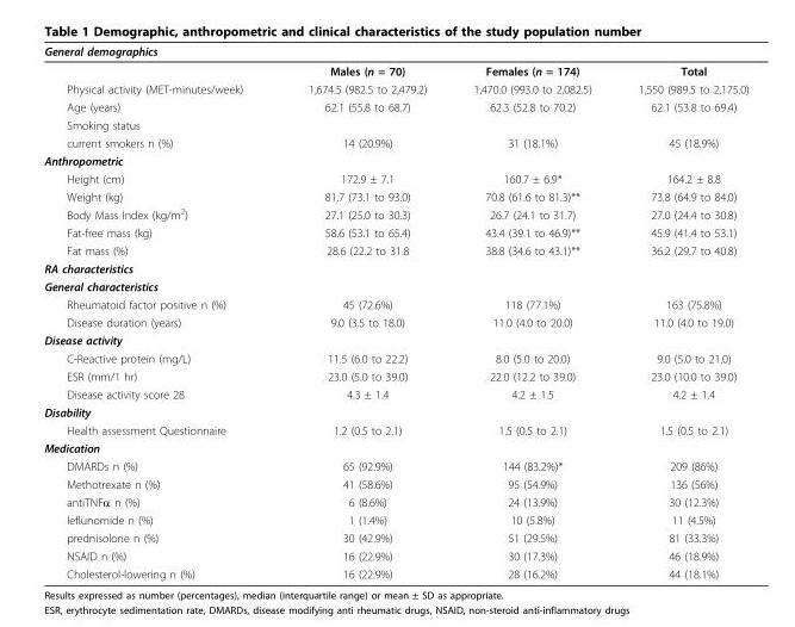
<table><thead><tr><td>General demographics</td><td></td><td></td><td></td></tr></thead><tbody><tr><td></td><td>Males (n = 70)</td><td>Females (n = 174)</td><td>Total</td></tr><tr><td>Physical activity (MET-minutes/week)</td><td>1,674.5 (982.5 to 2,479.2)</td><td>1,470.0 (993.0 to 2,082.5)</td><td>1,550 (989.5 to 2,175.0)</td></tr><tr><td>Age (years)</td><td>62.1 (55.8 to 68.7)</td><td>62.3 (52.8 to 70.2)</td><td>62.1 (53.8 to 69.4)</td></tr><tr><td colspan="4">Smoking status</td></tr><tr><td>current smokers n (%)</td><td>14 (20.9%)</td><td>31 (18.1%)</td><td>45 (18.9%)</td></tr><tr><td colspan="4">Anthropometric</td></tr><tr><td>Height (cm)</td><td>172.9 ± 7.1</td><td>160.7 ± 6.9*</td><td>164.2 ± 8.8</td></tr><tr><td>Weight (kg)</td><td>81.7 (73.1 to 93.0)</td><td>70.8 (61.6 to 81.3)**</td><td>73.8 (64.9 to 84.0)</td></tr><tr><td>Body Mass Index (kg/m<sup>2</sup>)</td><td>27.1 (25.0 to 30.3)</td><td>26.7 (24.1 to 31.7)</td><td>27.0 (24.4 to 30.8)</td></tr><tr><td>Fat-free mass (kg)</td><td>58.6 (53.1 to 65.4)</td><td>43.4 (39.1 to 46.9)**</td><td>45.9 (41.4 to 53.1)</td></tr><tr><td>Fat mass (%)</td><td>28.6 (22.2 to 31.8</td><td>38.8 (34.6 to 43.1)**</td><td>36.2 (29.7 to 40.8)</td></tr><tr><td colspan="4">RA characteristics</td></tr><tr><td colspan="4">General characteristics</td></tr><tr><td>Rheumatoid factor positive n (%)</td><td>45 (72.6%)</td><td>118 (77.1%)</td><td>163 (75.8%)</td></tr><tr><td>Disease duration (years)</td><td>9.0 (3.5 to 18.0)</td><td>11.0 (4.0 to 20.0)</td><td>11.0 (4.0 to 19.0)</td></tr><tr><td colspan="4">Disease activity</td></tr><tr><td>C-Reactive protein (mg/L)</td><td>11.5 (6.0 to 22.2)</td><td>8.0 (5.0 to 20.0)</td><td>9.0 (5.0 to 21.0)</td></tr><tr><td>ESR (mm/1 hr)</td><td>23.0 (5.0 to 39.0)</td><td>22.0 (12.2 to 39.0)</td><td>23.0 (10.0 to 39.0)</td></tr><tr><td>Disease activity score 28</td><td>4.3 ± 1.4</td><td>4.2 ± 1.5</td><td>4.2 ± 1.4</td></tr><tr><td colspan="4">Disability</td></tr><tr><td>Health assessment Questionnaire</td><td>1.2 (0.5 to 2.1)</td><td>1.5 (0.5 to 2.1)</td><td>1.5 (0.5 to 2.1)</td></tr><tr><td colspan="4">Medication</td></tr><tr><td>DMARDs n (%)</td><td>65 (92.9%)</td><td>144 (83.2%)*</td><td>209 (86%)</td></tr><tr><td>Methotrexate n (%)</td><td>41 (58.6%)</td><td>95 (54.9%)</td><td>136 (56%)</td></tr><tr><td>antiTNFα n (%)</td><td>6 (8.6%)</td><td>24 (13.9%)</td><td>30 (12.3%)</td></tr><tr><td>leflunomide n (%)</td><td>1 (1.4%)</td><td>10 (5.8%)</td><td>11 (4.5%)</td></tr><tr><td>prednisolone n (%)</td><td>30 (42.9%)</td><td>51 (29.5%)</td><td>81 (33.3%)</td></tr><tr><td>NSAID n (%)</td><td>16 (22.9%)</td><td>30 (17.3%)</td><td>46 (18.9%)</td></tr><tr><td>Cholesterol-lowering n (%)</td><td>16 (22.9%)</td><td>28 (16.2%)</td><td>44 (18.1%)</td></tr></tbody></table>